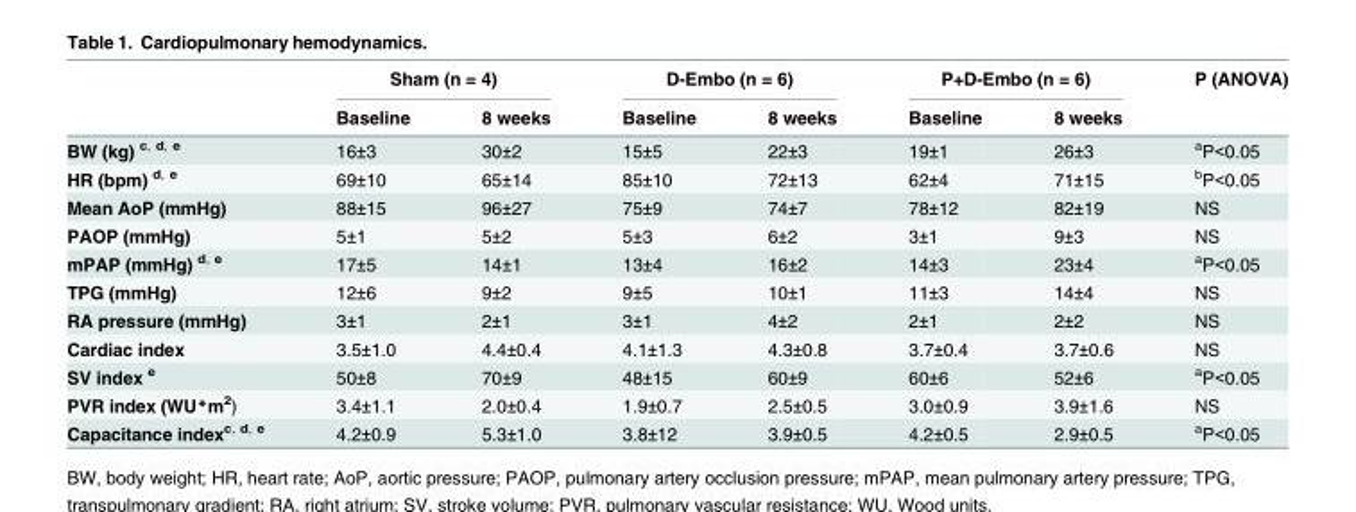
<table><thead><tr><td rowspan="2"></td><td colspan="2">Sham (n = 4)</td><td colspan="2">D-Embo (n = 6)</td><td colspan="2">P+D-Embo (n = 6)</td><td rowspan="2">P (ANOVA)</td></tr><tr><td>Baseline</td><td>8 weeks</td><td>Baseline</td><td>8 weeks</td><td>Baseline</td><td>8 weeks</td></tr></thead><tbody><tr><td>BW (kg) <sup>c, d, e</sup></td><td>16±3</td><td>30±2</td><td>15±5</td><td>22±3</td><td>19±1</td><td>26±3</td><td><sup>a</sup>P&lt;0.05</td></tr><tr><td>HR (bpm) <sup>d, e</sup></td><td>69±10</td><td>65±14</td><td>85±10</td><td>72±13</td><td>62±4</td><td>71±15</td><td><sup>b</sup>P&lt;0.05</td></tr><tr><td>Mean AoP (mmHg)</td><td>88±15</td><td>96±27</td><td>75±9</td><td>74±7</td><td>78±12</td><td>82±19</td><td>NS</td></tr><tr><td>PAOP (mmHg)</td><td>5±1</td><td>5±2</td><td>5±3</td><td>6±2</td><td>3±1</td><td>9±3</td><td>NS</td></tr><tr><td>mPAP (mmHg) <sup>d, e</sup></td><td>17±5</td><td>14±1</td><td>13±4</td><td>16±2</td><td>14±3</td><td>23±4</td><td><sup>a</sup>P&lt;0.05</td></tr><tr><td>TPG (mmHg)</td><td>12±6</td><td>9±2</td><td>9±5</td><td>10±1</td><td>11±3</td><td>14±4</td><td>NS</td></tr><tr><td>RA pressure (mmHg)</td><td>3±1</td><td>2±1</td><td>3±1</td><td>4±2</td><td>2±1</td><td>2±2</td><td>NS</td></tr><tr><td>Cardiac index</td><td>3.5±1.0</td><td>4.4±0.4</td><td>4.1±1.3</td><td>4.3±0.8</td><td>3.7±0.4</td><td>3.7±0.6</td><td>NS</td></tr><tr><td>SV index <sup>e</sup></td><td>50±8</td><td>70±9</td><td>48±15</td><td>60±9</td><td>60±6</td><td>52±6</td><td><sup>a</sup>P&lt;0.05</td></tr><tr><td>PVR index (WU*m<sup>2</sup>)</td><td>3.4±1.1</td><td>2.0±0.4</td><td>1.9±0.7</td><td>2.5±0.5</td><td>3.0±0.9</td><td>3.9±1.6</td><td>NS</td></tr><tr><td>Capacitance index<sup>c, d, e</sup></td><td>4.2±0.9</td><td>5.3±1.0</td><td>3.8±12</td><td>3.9±0.5</td><td>4.2±0.5</td><td>2.9±0.5</td><td><sup>a</sup>P&lt;0.05</td></tr></tbody></table>